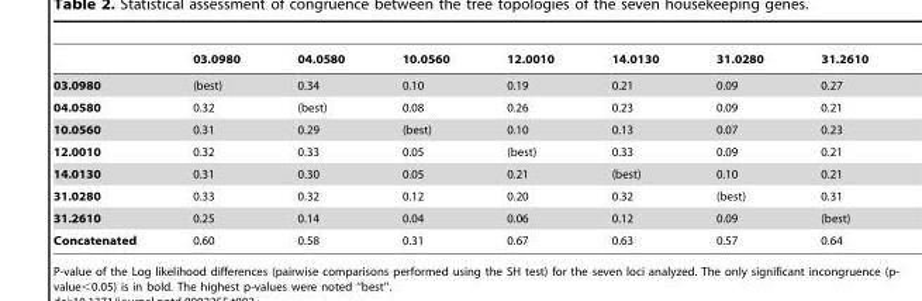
<table><thead><tr><td></td><td>03.0980</td><td>04.0580</td><td>10.0560</td><td>12.0010</td><td>14.0130</td><td>31.0280</td><td>31.2610</td></tr></thead><tbody><tr><td>03.0980</td><td>(best)</td><td>0.34</td><td>0.10</td><td>0.19</td><td>0.21</td><td>0.09</td><td>0.27</td></tr><tr><td>04.0580</td><td>0.32</td><td>(best)</td><td>0.08</td><td>0.26</td><td>0.23</td><td>0.09</td><td>0.21</td></tr><tr><td>10.0560</td><td>0.31</td><td>0.29</td><td>(best)</td><td>0.10</td><td>0.13</td><td>0.07</td><td>0.23</td></tr><tr><td>12.0010</td><td>0.32</td><td>0.33</td><td>0.05</td><td>(best)</td><td>0.33</td><td>0.09</td><td>0.21</td></tr><tr><td>14.0130</td><td>0.31</td><td>0.30</td><td>0.05</td><td>0.21</td><td>(best)</td><td>0.10</td><td>0.21</td></tr><tr><td>31.0280</td><td>0.33</td><td>0.32</td><td>0.12</td><td>0.20</td><td>0.32</td><td>(best)</td><td>0.31</td></tr><tr><td>31.2610</td><td>0.25</td><td>0.14</td><td>0.04</td><td>0.06</td><td>0.12</td><td>0.09</td><td>(best)</td></tr><tr><td>Concatenated</td><td>0.60</td><td>0.58</td><td>0.31</td><td>0.67</td><td>0.63</td><td>0.57</td><td>0.64</td></tr></tbody></table>